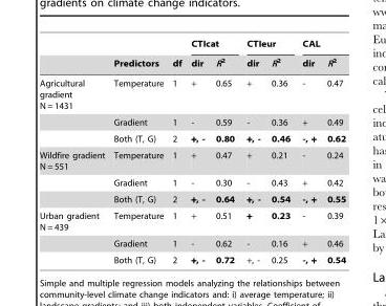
<table><thead><tr><td rowspan="2"></td><td rowspan="2">Predictors</td><td rowspan="2">df</td><td colspan="2">CTIcat</td><td colspan="2">CTIeur</td><td colspan="2">CAL</td></tr><tr><td>dir</td><td>R<sup>2</sup></td><td>dir</td><td>R<sup>2</sup></td><td>dir</td><td>R<sup>2</sup></td></tr></thead><tbody><tr><td rowspan="3">Agricultural gradient N = 1431</td><td>Temperature</td><td>1</td><td>+</td><td>0.65</td><td>+</td><td>0.36</td><td>-</td><td>0.47</td></tr><tr><td>Gradient</td><td>1</td><td>-</td><td>0.59</td><td>-</td><td>0.36</td><td>+</td><td>0.49</td></tr><tr><td>Both (T, G)</td><td>2</td><td>+, -</td><td>0.80</td><td>+, -</td><td>0.46</td><td>-, +</td><td>0.62</td></tr><tr><td rowspan="3">Wildfire gradient N = 551</td><td>Temperature</td><td>1</td><td>+</td><td>0.47</td><td>+</td><td>0.21</td><td>-</td><td>0.24</td></tr><tr><td>Gradient</td><td>1</td><td>-</td><td>0.30</td><td>-</td><td>0.43</td><td>+</td><td>0.42</td></tr><tr><td>Both (T, G)</td><td>2</td><td>+, -</td><td>0.64</td><td>+, -</td><td>0.54</td><td>-, +</td><td>0.55</td></tr><tr><td rowspan="3">Urban gradient N = 439</td><td>Temperature</td><td>1</td><td>+</td><td>0.51</td><td>+</td><td>0.23</td><td>-</td><td>0.39</td></tr><tr><td>Gradient</td><td>1</td><td>-</td><td>0.62</td><td>-</td><td>0.16</td><td>+</td><td>0.46</td></tr><tr><td>Both (T, G)</td><td>2</td><td>+, -</td><td>0.72</td><td>+, -</td><td>0.25</td><td>-, +</td><td>0.54</td></tr></tbody></table>